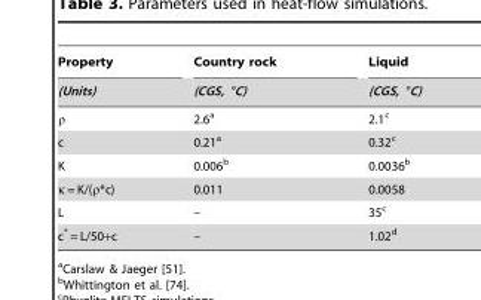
<table><thead><tr><td rowspan="2">Property (Units)</td><td rowspan="2">Country rock (CGS, °C)</td><td rowspan="2">Liquid (CGS, °C)</td></tr><tr></tr></thead><tbody><tr><td>ρ</td><td>2.6<sup>a</sup></td><td>2.1<sup>c</sup></td></tr><tr><td>c</td><td>0.21<sup>a</sup></td><td>0.32<sup>c</sup></td></tr><tr><td>K</td><td>0.006<sup>b</sup></td><td>0.0036<sup>b</sup></td></tr><tr><td>κ = K/(ρ*c)</td><td>0.011</td><td>0.0058</td></tr><tr><td>L</td><td>–</td><td>35<sup>c</sup></td></tr><tr><td>c* = L/50+c</td><td>–</td><td>1.02<sup>d</sup></td></tr></tbody></table>